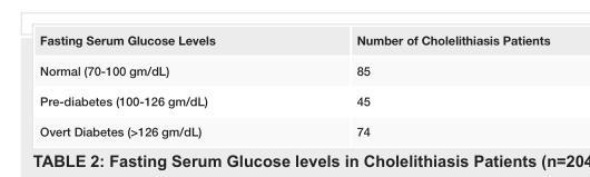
<table><tbody><tr><td>Fasting Serum Glucose Levels</td><td>Number of Cholelithiasis Patients</td></tr><tr><td>Normal (70-100 gm/dL)</td><td>85</td></tr><tr><td>Pre-diabetes (100-126 gm/dL)</td><td>45</td></tr><tr><td>Overt Diabetes (&gt;126 gm/dL)</td><td>74</td></tr></tbody></table>